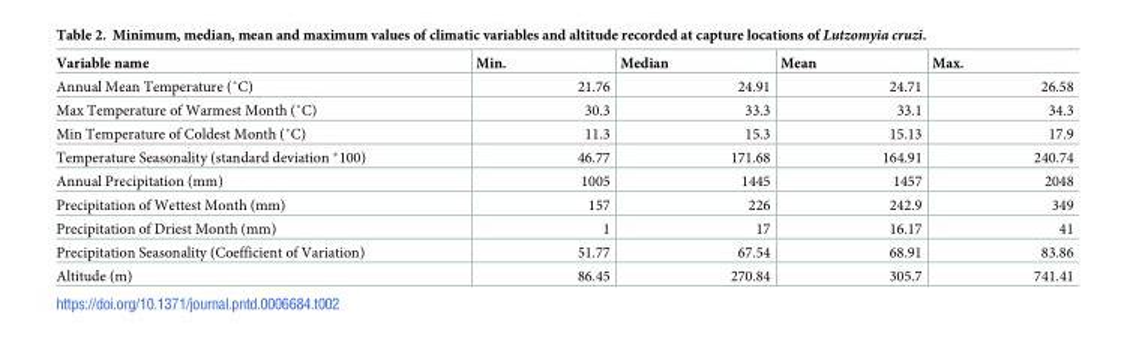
<table><thead><tr><td>Variable name</td><td>Min.</td><td>Median</td><td>Mean</td><td>Max.</td></tr></thead><tbody><tr><td>Annual Mean Temperature (˚C)</td><td>21.76</td><td>24.91</td><td>24.71</td><td>26.58</td></tr><tr><td>Max Temperature of Warmest Month (˚C)</td><td>30.3</td><td>33.3</td><td>33.1</td><td>34.3</td></tr><tr><td>Min Temperature of Coldest Month (˚C)</td><td>11.3</td><td>15.3</td><td>15.13</td><td>17.9</td></tr><tr><td>Temperature Seasonality (standard deviation *100)</td><td>46.77</td><td>171.68</td><td>164.91</td><td>240.74</td></tr><tr><td>Annual Precipitation (mm)</td><td>1005</td><td>1445</td><td>1457</td><td>2048</td></tr><tr><td>Precipitation of Wettest Month (mm)</td><td>157</td><td>226</td><td>242.9</td><td>349</td></tr><tr><td>Precipitation of Driest Month (mm)</td><td>1</td><td>17</td><td>16.17</td><td>41</td></tr><tr><td>Precipitation Seasonality (Coefficient of Variation)</td><td>51.77</td><td>67.54</td><td>68.91</td><td>83.86</td></tr><tr><td>Altitude (m)</td><td>86.45</td><td>270.84</td><td>305.7</td><td>741.41</td></tr></tbody></table>